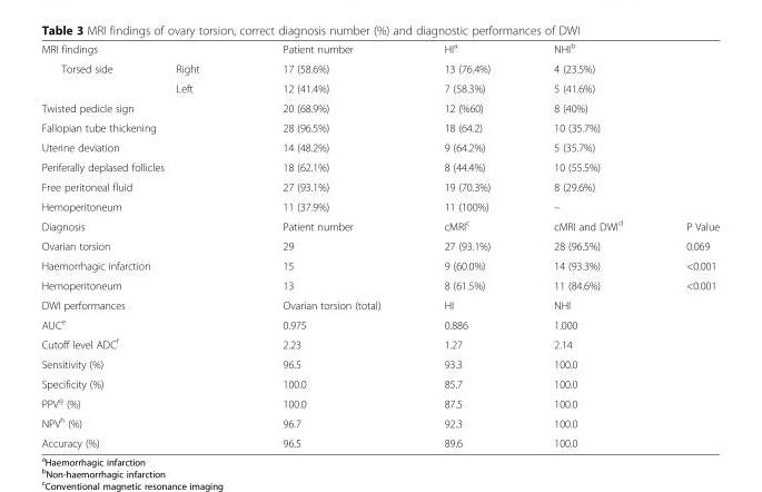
<table><tbody><tr><td colspan="2">MRI findings</td><td>Patient number</td><td>HI<sup>a</sup></td><td>NHI<sup>b</sup></td><td></td></tr><tr><td rowspan="2">Torsed side</td><td>Right</td><td>17 (58.6%)</td><td>13 (76.4%)</td><td>4 (23.5%)</td><td></td></tr><tr><td>Left</td><td>12 (41.4%)</td><td>7 (58.3%)</td><td>5 (41.6%)</td><td></td></tr><tr><td colspan="2">Twisted pedicle sign</td><td>20 (68.9%)</td><td>12 (%60)</td><td>8 (40%)</td><td></td></tr><tr><td colspan="2">Fallopian tube thickening</td><td>28 (96.5%)</td><td>18 (64.2)</td><td>10 (35.7%)</td><td></td></tr><tr><td colspan="2">Uterine deviation</td><td>14 (48.2%)</td><td>9 (64.2%)</td><td>5 (35.7%)</td><td></td></tr><tr><td colspan="2">Periferally deplased follicles</td><td>18 (62.1%)</td><td>8 (44.4%)</td><td>10 (55.5%)</td><td></td></tr><tr><td colspan="2">Free peritoneal fluid</td><td>27 (93.1%)</td><td>19 (70.3%)</td><td>8 (29.6%)</td><td></td></tr><tr><td colspan="2">Hemoperitoneum</td><td>11 (37.9%)</td><td>11 (100%)</td><td>–</td><td></td></tr><tr><td colspan="2">Diagnosis</td><td>Patient number</td><td>cMRI<sup>c</sup></td><td>cMRI and DWI<sup>d</sup></td><td>P Value</td></tr><tr><td colspan="2">Ovarian torsion</td><td>29</td><td>27 (93.1%)</td><td>28 (96.5%)</td><td>0.069</td></tr><tr><td colspan="2">Haemorrhagic infarction</td><td>15</td><td>9 (60.0%)</td><td>14 (93.3%)</td><td>&lt;0.001</td></tr><tr><td colspan="2">Hemoperitoneum</td><td>13</td><td>8 (61.5%)</td><td>11 (84.6%)</td><td>&lt;0.001</td></tr><tr><td colspan="2">DWI performances</td><td>Ovarian torsion (total)</td><td>HI</td><td>NHI</td><td></td></tr><tr><td colspan="2">AUC<sup>e</sup></td><td>0.975</td><td>0.886</td><td>1.000</td><td></td></tr><tr><td colspan="2">Cutoff level ADC<sup>f</sup></td><td>2.23</td><td>1.27</td><td>2.14</td><td></td></tr><tr><td colspan="2">Sensitivity (%)</td><td>96.5</td><td>93.3</td><td>100.0</td><td></td></tr><tr><td colspan="2">Specificity (%)</td><td>100.0</td><td>85.7</td><td>100.0</td><td></td></tr><tr><td colspan="2">PPV<sup>g</sup> (%)</td><td>100.0</td><td>87.5</td><td>100.0</td><td></td></tr><tr><td colspan="2">NPV<sup>h</sup> (%)</td><td>96.7</td><td>92.3</td><td>100.0</td><td></td></tr><tr><td colspan="2">Accuracy (%)</td><td>96.5</td><td>89.6</td><td>100.0</td><td></td></tr></tbody></table>